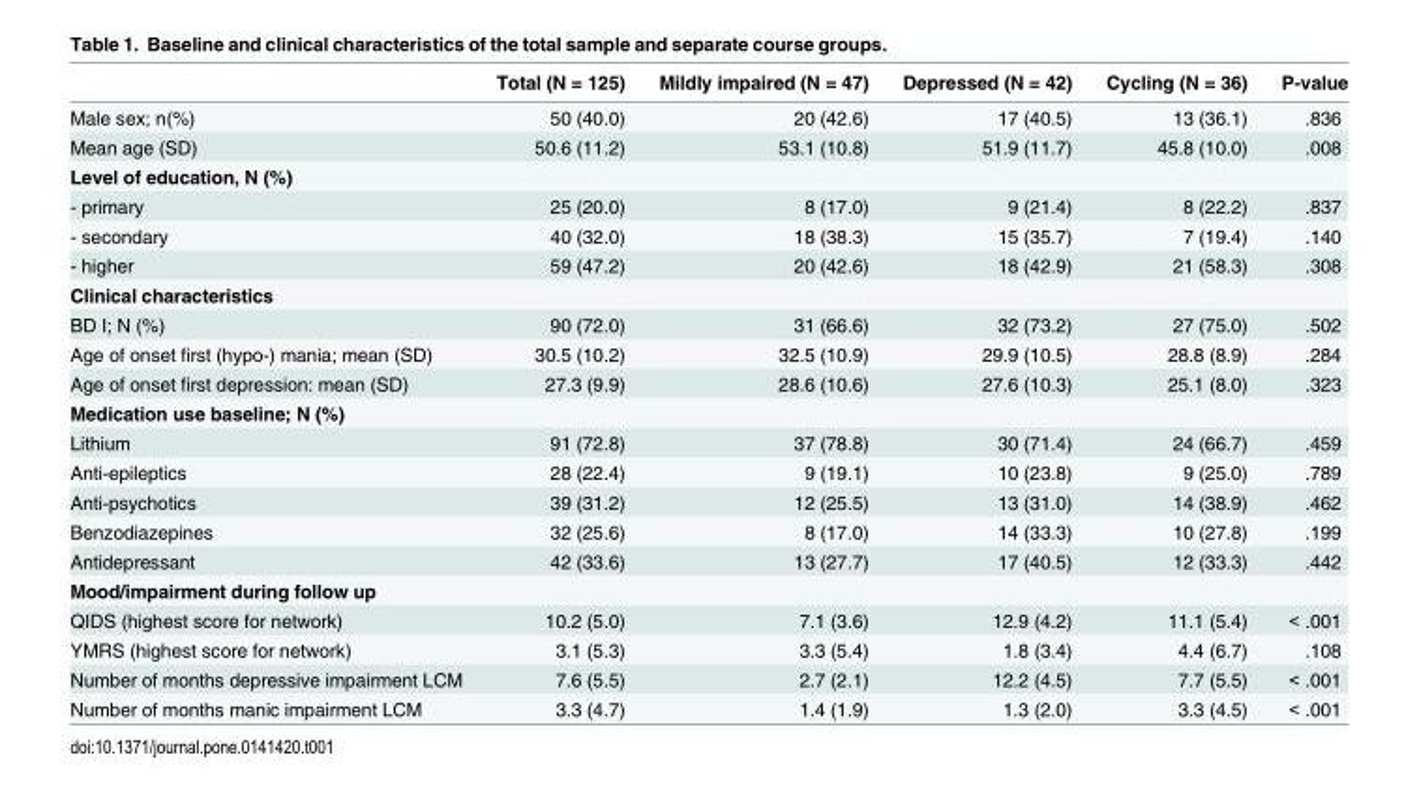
<table><thead><tr><td></td><td>Total (N = 125)</td><td>Mildly impaired (N = 47)</td><td>Depressed (N = 42)</td><td>Cycling (N = 36)</td><td>P-value</td></tr></thead><tbody><tr><td>Male sex; n(%)</td><td>50 (40.0)</td><td>20 (42.6)</td><td>17 (40.5)</td><td>13 (36.1)</td><td>.836</td></tr><tr><td>Mean age (SD)</td><td>50.6 (11.2)</td><td>53.1 (10.8)</td><td>51.9 (11.7)</td><td>45.8 (10.0)</td><td>.008</td></tr><tr><td colspan="6">Level of education, N (%)</td></tr><tr><td>- primary</td><td>25 (20.0)</td><td>8 (17.0)</td><td>9 (21.4)</td><td>8 (22.2)</td><td>.837</td></tr><tr><td>- secondary</td><td>40 (32.0)</td><td>18 (38.3)</td><td>15 (35.7)</td><td>7 (19.4)</td><td>.140</td></tr><tr><td>- higher</td><td>59 (47.2)</td><td>20 (42.6)</td><td>18 (42.9)</td><td>21 (58.3)</td><td>.308</td></tr><tr><td colspan="6">Clinical characteristics</td></tr><tr><td>BD I; N (%)</td><td>90 (72.0)</td><td>31 (66.6)</td><td>32 (73.2)</td><td>27 (75.0)</td><td>.502</td></tr><tr><td>Age of onset first (hypo-) mania; mean (SD)</td><td>30.5 (10.2)</td><td>32.5 (10.9)</td><td>29.9 (10.5)</td><td>28.8 (8.9)</td><td>.284</td></tr><tr><td>Age of onset first depression: mean (SD)</td><td>27.3 (9.9)</td><td>28.6 (10.6)</td><td>27.6 (10.3)</td><td>25.1 (8.0)</td><td>.323</td></tr><tr><td colspan="6">Medication use baseline; N (%)</td></tr><tr><td>Lithium</td><td>91 (72.8)</td><td>37 (78.8)</td><td>30 (71.4)</td><td>24 (66.7)</td><td>.459</td></tr><tr><td>Anti-epileptics</td><td>28 (22.4)</td><td>9 (19.1)</td><td>10 (23.8)</td><td>9 (25.0)</td><td>.789</td></tr><tr><td>Anti-psychotics</td><td>39 (31.2)</td><td>12 (25.5)</td><td>13 (31.0)</td><td>14 (38.9)</td><td>.462</td></tr><tr><td>Benzodiazepines</td><td>32 (25.6)</td><td>8 (17.0)</td><td>14 (33.3)</td><td>10 (27.8)</td><td>.199</td></tr><tr><td>Antidepressant</td><td>42 (33.6)</td><td>13 (27.7)</td><td>17 (40.5)</td><td>12 (33.3)</td><td>.442</td></tr><tr><td colspan="6">Mood/impairment during follow up</td></tr><tr><td>QIDS (highest score for network)</td><td>10.2 (5.0)</td><td>7.1 (3.6)</td><td>12.9 (4.2)</td><td>11.1 (5.4)</td><td>&lt; .001</td></tr><tr><td>YMRS (highest score for network)</td><td>3.1 (5.3)</td><td>3.3 (5.4)</td><td>1.8 (3.4)</td><td>4.4 (6.7)</td><td>.108</td></tr><tr><td>Number of months depressive impairment LCM</td><td>7.6 (5.5)</td><td>2.7 (2.1)</td><td>12.2 (4.5)</td><td>7.7 (5.5)</td><td>&lt; .001</td></tr><tr><td>Number of months manic impairment LCM</td><td>3.3 (4.7)</td><td>1.4 (1.9)</td><td>1.3 (2.0)</td><td>3.3 (4.5)</td><td>&lt; .001</td></tr></tbody></table>